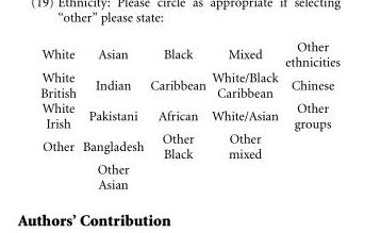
<table><tbody><tr><td>White</td><td>Asian</td><td>Black</td><td>Mixed</td><td>Other ethnicities</td></tr><tr><td>White British</td><td>Indian</td><td>Caribbean</td><td>White/Black Caribbean</td><td>Chinese</td></tr><tr><td>White Irish</td><td>Pakistani</td><td>African</td><td>White/Asian</td><td>Other groups</td></tr><tr><td rowspan="2">Other</td><td>Bangladesh</td><td>Other Black</td><td>Other mixed</td><td></td></tr><tr><td>Other Asian</td><td></td><td></td><td></td></tr></tbody></table>